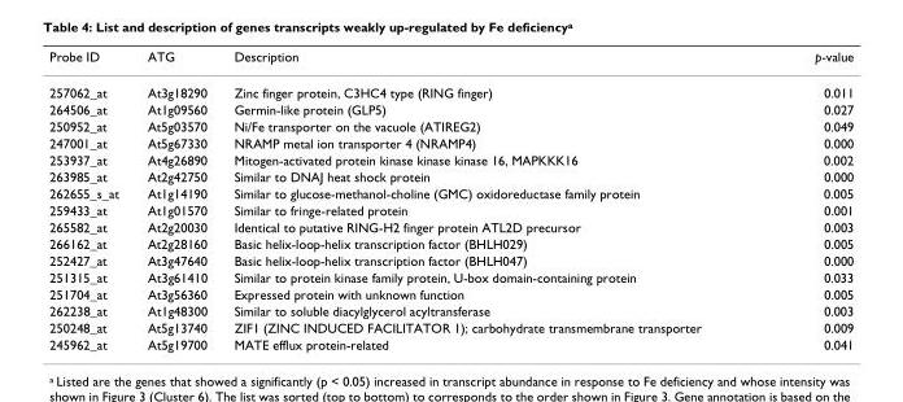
<table><thead><tr><td>Probe ID</td><td>ATG</td><td>Description</td><td>p-value</td></tr></thead><tbody><tr><td>257062_at</td><td>At3g18290</td><td>Zinc finger protein, C3HC4 type (RING finger)</td><td>0.011</td></tr><tr><td>264506_at</td><td>At1g09560</td><td>Germin-like protein (GLP5)</td><td>0.027</td></tr><tr><td>250952_at</td><td>At5g03570</td><td>Ni/Fe transporter on the vacuole (ATIREG2)</td><td>0.049</td></tr><tr><td>247001_at</td><td>At5g67330</td><td>NRAMP metal ion transporter 4 (NRAMP4)</td><td>0.000</td></tr><tr><td>253937_at</td><td>At4g26890</td><td>Mitogen-activated protein kinase kinase kinase 16, MAPKKK16</td><td>0.002</td></tr><tr><td>263985_at</td><td>At2g42750</td><td>Similar to DNAJ heat shock protein</td><td>0.000</td></tr><tr><td>262655_s_at</td><td>At1g14190</td><td>Similar to glucose-methanol-choline (GMC) oxidoreductase family protein</td><td>0.005</td></tr><tr><td>259433_at</td><td>At1g01570</td><td>Similar to fringe-related protein</td><td>0.001</td></tr><tr><td>265582_at</td><td>At2g20030</td><td>Identical to putative RING-H2 finger protein ATL2D precursor</td><td>0.003</td></tr><tr><td>266162_at</td><td>At2g28160</td><td>Basic helix-loop-helix transcription factor (BHLH029)</td><td>0.005</td></tr><tr><td>252427_at</td><td>At3g47640</td><td>Basic helix-loop-helix transcription factor (BHLH047)</td><td>0.000</td></tr><tr><td>251315_at</td><td>At3g61410</td><td>Similar to protein kinase family protein, U-box domain-containing protein</td><td>0.033</td></tr><tr><td>251704_at</td><td>At3g56360</td><td>Expressed protein with unknown function</td><td>0.005</td></tr><tr><td>262238_at</td><td>At1g48300</td><td>Similar to soluble diacylglycerol acyltransferase</td><td>0.003</td></tr><tr><td>250248_at</td><td>At5g13740</td><td>ZIF1 (ZINC INDUCED FACILITATOR 1); carbohydrate transmembrane transporter</td><td>0.009</td></tr><tr><td>245962_at</td><td>At5g19700</td><td>MATE efflux protein-related</td><td>0.041</td></tr></tbody></table>